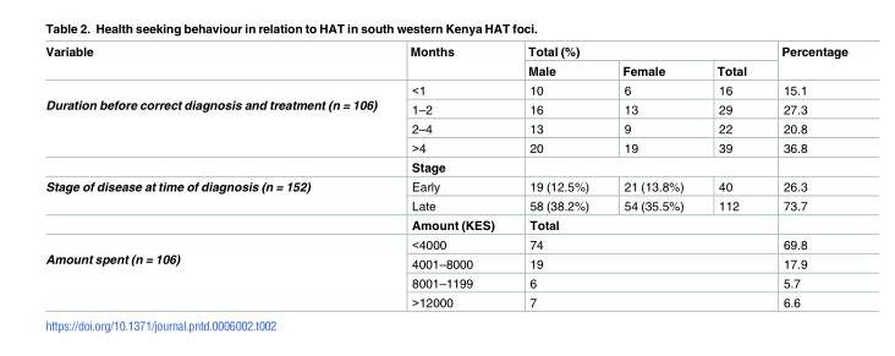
<table><thead><tr><td rowspan="2">Variable</td><td rowspan="2">Months</td><td colspan="3">Total (%)</td><td rowspan="2">Percentage</td></tr><tr><td>Male</td><td>Female</td><td>Total</td></tr></thead><tbody><tr><td rowspan="5">Duration before correct diagnosis and treatment (n = 106)</td><td>&lt;1</td><td>10</td><td>6</td><td>16</td><td>15.1</td></tr><tr><td>1–2</td><td>16</td><td>13</td><td>29</td><td>27.3</td></tr><tr><td>2–4</td><td>13</td><td>9</td><td>22</td><td>20.8</td></tr><tr><td>&gt;4</td><td>20</td><td>19</td><td>39</td><td>36.8</td></tr><tr><td>Stage</td><td colspan="3"></td><td></td></tr><tr><td rowspan="3">Stage of disease at time of diagnosis (n = 152)</td><td>Early</td><td>19 (12.5%)</td><td>21 (13.8%)</td><td>40</td><td>26.3</td></tr><tr><td>Late</td><td>58 (38.2%)</td><td>54 (35.5%)</td><td>112</td><td>73.7</td></tr><tr><td>Amount (KES)</td><td colspan="3">Total</td><td></td></tr><tr><td rowspan="4">Amount spent (n = 106)</td><td>&lt;4000</td><td colspan="3">74</td><td>69.8</td></tr><tr><td>4001–8000</td><td colspan="3">19</td><td>17.9</td></tr><tr><td>8001–1199</td><td colspan="3">6</td><td>5.7</td></tr><tr><td>&gt;12000</td><td colspan="3">7</td><td>6.6</td></tr></tbody></table>